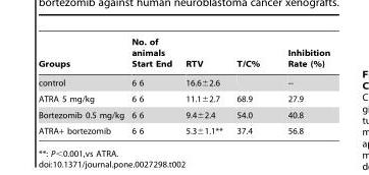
<table><thead><tr><td>Groups</td><td>No. of animals Start End</td><td>RTV</td><td>T/C%</td><td>Inhibition Rate (%)</td></tr></thead><tbody><tr><td>control</td><td>6 6</td><td>16.6±2.6</td><td></td><td>--</td></tr><tr><td>ATRA 5 mg/kg</td><td>6 6</td><td>11.1±2.7</td><td>68.9</td><td>27.9</td></tr><tr><td>Bortezomib 0.5 mg/kg</td><td>6 6</td><td>9.4±2.4</td><td>54.0</td><td>40.8</td></tr><tr><td>ATRA+ bortezomib</td><td>6 6</td><td>5.3±1.1**</td><td>37.4</td><td>56.8</td></tr></tbody></table>